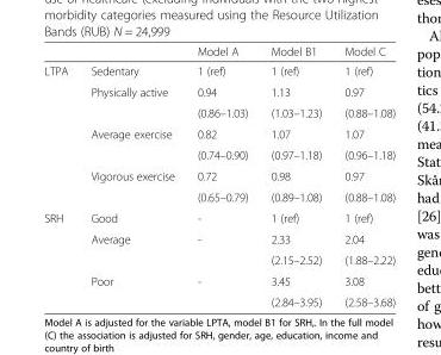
<table><thead><tr><td></td><td></td><td>Model A</td><td>Model B1</td><td>Model C</td></tr></thead><tbody><tr><td rowspan="7">LTPA</td><td>Sedentary</td><td>1 (ref)</td><td>1 (ref)</td><td>1 (ref)</td></tr><tr><td rowspan="2">Physically active</td><td>0.94</td><td>1.13</td><td>0.97</td></tr><tr><td>(0.86–1.03)</td><td>(1.03–1.23)</td><td>(0.88–1.08)</td></tr><tr><td rowspan="2">Average exercise</td><td>0.82</td><td>1.07</td><td>1.07</td></tr><tr><td>(0.74–0.90)</td><td>(0.97–1.18)</td><td>(0.96–1.18)</td></tr><tr><td rowspan="2">Vigorous exercise</td><td>0.72</td><td>0.98</td><td>0.97</td></tr><tr><td>(0.65–0.79)</td><td>(0.89–1.08)</td><td>(0.88–1.08)</td></tr><tr><td rowspan="5">SRH</td><td>Good</td><td>-</td><td>1 (ref)</td><td>1 (ref)</td></tr><tr><td rowspan="2">Average</td><td>-</td><td>2.33</td><td>2.04</td></tr><tr><td></td><td>(2.15–2.52)</td><td>(1.88–2.22)</td></tr><tr><td rowspan="2">Poor</td><td>-</td><td>3.45</td><td>3.08</td></tr><tr><td></td><td>(2.84–3.95)</td><td>(2.58–3.68)</td></tr></tbody></table>